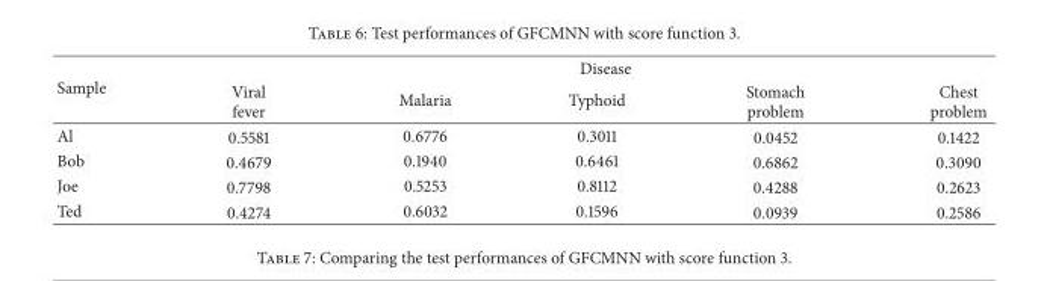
<table><thead><tr><td rowspan="2">Sample</td><td colspan="5">Disease</td></tr><tr><td>Viral fever</td><td>Malaria</td><td>Typhoid</td><td>Stomach problem</td><td>Chest problem</td></tr></thead><tbody><tr><td>Al</td><td>0.5581</td><td>0.6776</td><td>0.3011</td><td>0.0452</td><td>0.1422</td></tr><tr><td>Bob</td><td>0.4679</td><td>0.1940</td><td>0.6461</td><td>0.6862</td><td>0.3090</td></tr><tr><td>Joe</td><td>0.7798</td><td>0.5253</td><td>0.8112</td><td>0.4288</td><td>0.2623</td></tr><tr><td>Ted</td><td>0.4274</td><td>0.6032</td><td>0.1596</td><td>0.0939</td><td>0.2586</td></tr></tbody></table>